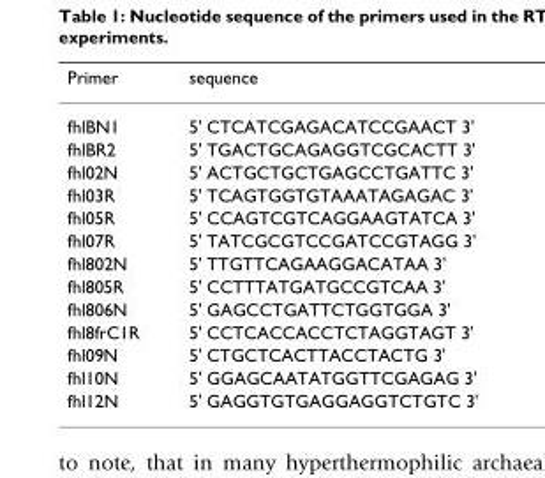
<table><thead><tr><td>Primer</td><td>sequence</td></tr></thead><tbody><tr><td>fhlBN1</td><td>5&#x27; CTCATCGAGACATCCGAACT 3&#x27;</td></tr><tr><td>fhlBR2</td><td>5&#x27; TGACTGCAGAGGTCGCACTT 3&#x27;</td></tr><tr><td>fhl02N</td><td>5&#x27; ACTGCTGCTGAGCCTGATTC 3&#x27;</td></tr><tr><td>fhl03R</td><td>5&#x27; TCAGTGGTGTAAATAGAGAC 3&#x27;</td></tr><tr><td>fhl05R</td><td>5&#x27; CCAGTCGTCAGGAAGTATCA 3&#x27;</td></tr><tr><td>fhl07R</td><td>5&#x27; TATCGCGTCCGATCCGTAGG 3&#x27;</td></tr><tr><td>fhl802N</td><td>5&#x27; TTGTTCAGAAGGACATAA 3&#x27;</td></tr><tr><td>fhl805R</td><td>5&#x27; CCTTTATGATGCCGTCAA 3&#x27;</td></tr><tr><td>fhl806N</td><td>5&#x27; GAGCCTGATTCTGGTGGA 3&#x27;</td></tr><tr><td>fhl8frC1R</td><td>5&#x27; CCTCACCACCTCTAGGTAGT 3&#x27;</td></tr><tr><td>fhl09N</td><td>5&#x27; CTGCTCACTTACCTACTG 3&#x27;</td></tr><tr><td>fhl10N</td><td>5&#x27; GGAGCAATATGGTTCGAGAG 3&#x27;</td></tr><tr><td>fhl12N</td><td>5&#x27; GAGGTGTGAGGAGGTCTGTC 3&#x27;</td></tr></tbody></table>